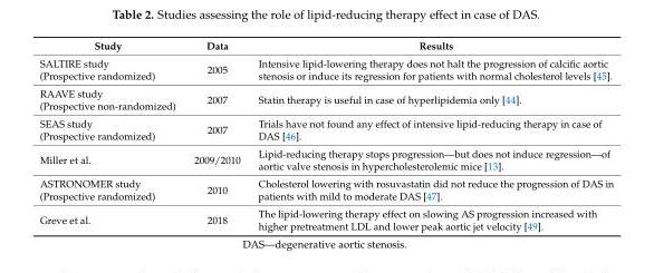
<table><thead><tr><td>Study</td><td>Data</td><td>Results</td></tr></thead><tbody><tr><td>SALTIRE study (Prospective randomized)</td><td>2005</td><td>Intensive lipid-lowering therapy does not halt the progression of calcific aortic stenosis or induce its regression for patients with normal cholesterol levels [45].</td></tr><tr><td>RAAVE study (Prospective non-randomized)</td><td>2007</td><td>Statin therapy is useful in case of hyperlipidemia only [44].</td></tr><tr><td>SEAS study (Prospective randomized)</td><td>2007</td><td>Trials have not found any effect of intensive lipid-reducing therapy in case of DAS [46].</td></tr><tr><td>Miller et al.</td><td>2009/2010</td><td>Lipid-reducing therapy stops progression—but does not induce regression—of aortic valve stenosis in hypercholesterolemic mice [13].</td></tr><tr><td>ASTRONOMER study (Prospective randomized)</td><td>2010</td><td>Cholesterol lowering with rosuvastatin did not reduce the progression of DAS in patients with mild to moderate DAS [47].</td></tr><tr><td>Greve et al.</td><td>2018</td><td>The lipid-lowering therapy effect on slowing AS progression increased with higher pretreatment LDL and lower peak aortic jet velocity [49].</td></tr></tbody></table>